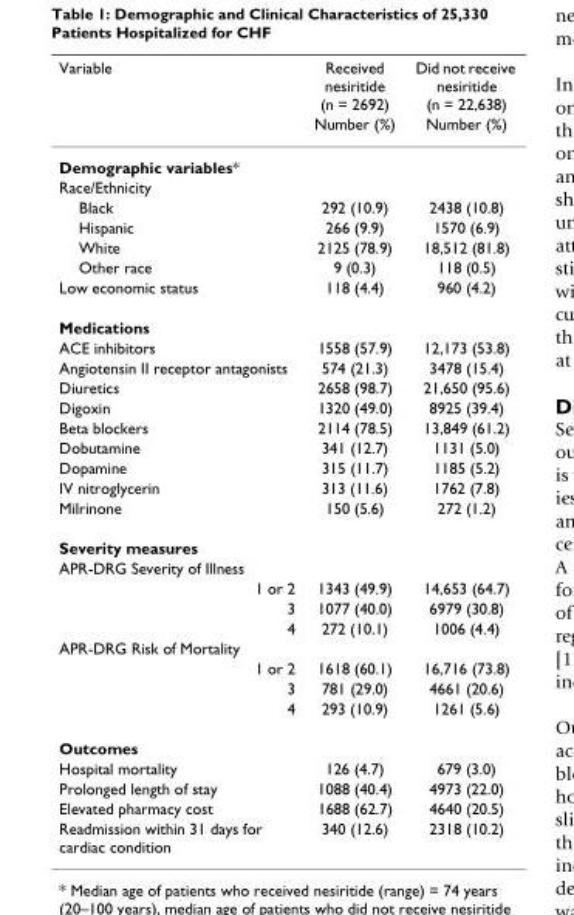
<table><thead><tr><td rowspan="2">Variable</td><td rowspan="2">Received nesiritide (n = 2692) Number (%)</td><td rowspan="2">Did not receive nesiritide (n = 22,638) Number (%)</td></tr><tr></tr></thead><tbody><tr><td colspan="3">Demographic variables*</td></tr><tr><td colspan="3">Race/Ethnicity</td></tr><tr><td>Black</td><td>292 (10.9)</td><td>2438 (10.8)</td></tr><tr><td>Hispanic</td><td>266 (9.9)</td><td>1570 (6.9)</td></tr><tr><td>White</td><td>2125 (78.9)</td><td>18,512 (81.8)</td></tr><tr><td>Other race</td><td>9 (0.3)</td><td>118 (0.5)</td></tr><tr><td>Low economic status</td><td>118 (4.4)</td><td>960 (4.2)</td></tr><tr><td colspan="3">Medications</td></tr><tr><td>ACE inhibitors</td><td>1558 (57.9)</td><td>12,173 (53.8)</td></tr><tr><td>Angiotensin II receptor antagonists</td><td>574 (21.3)</td><td>3478 (15.4)</td></tr><tr><td>Diuretics</td><td>2658 (98.7)</td><td>21,650 (95.6)</td></tr><tr><td>Digoxin</td><td>1320 (49.0)</td><td>8925 (39.4)</td></tr><tr><td>Beta blockers</td><td>2114 (78.5)</td><td>13,849 (61.2)</td></tr><tr><td>Dobutamine</td><td>341 (12.7)</td><td>1131 (5.0)</td></tr><tr><td>Dopamine</td><td>315 (11.7)</td><td>1185 (5.2)</td></tr><tr><td>IV nitroglycerin</td><td>313 (11.6)</td><td>1762 (7.8)</td></tr><tr><td>Milrinone</td><td>150 (5.6)</td><td>272 (1.2)</td></tr><tr><td colspan="3">Severity measures</td></tr><tr><td colspan="3">APR-DRG Severity of Illness</td></tr><tr><td>1 or 2</td><td>1343 (49.9)</td><td>14,653 (64.7)</td></tr><tr><td>3</td><td>1077 (40.0)</td><td>6979 (30.8)</td></tr><tr><td>4</td><td>272 (10.1)</td><td>1006 (4.4)</td></tr><tr><td colspan="3">APR-DRG Risk of Mortality</td></tr><tr><td>1 or 2</td><td>1618 (60.1)</td><td>16,716 (73.8)</td></tr><tr><td>3</td><td>781 (29.0)</td><td>4661 (20.6)</td></tr><tr><td>4</td><td>293 (10.9)</td><td>1261 (5.6)</td></tr><tr><td colspan="3">Outcomes</td></tr><tr><td>Hospital mortality</td><td>126 (4.7)</td><td>679 (3.0)</td></tr><tr><td>Prolonged length of stay</td><td>1088 (40.4)</td><td>4973 (22.0)</td></tr><tr><td>Elevated pharmacy cost</td><td>1688 (62.7)</td><td>4640 (20.5)</td></tr><tr><td>Readmission within 31 days for cardiac condition</td><td>340 (12.6)</td><td>2318 (10.2)</td></tr></tbody></table>